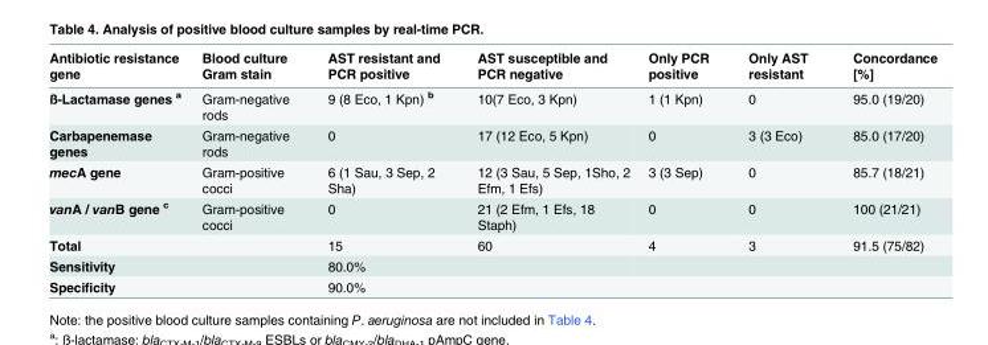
<table><thead><tr><td>Antibiotic resistance gene</td><td>Blood culture Gram stain</td><td>AST resistant and PCR positive</td><td>AST susceptible and PCR negative</td><td>Only PCR positive</td><td>Only AST resistant</td><td>Concordance [%]</td></tr></thead><tbody><tr><td>ß-Lactamase genes <sup>a</sup></td><td>Gram-negative rods</td><td>9 (8 Eco, 1 Kpn) <sup>b</sup></td><td>10(7 Eco, 3 Kpn)</td><td>1 (1 Kpn)</td><td>0</td><td>95.0 (19/20)</td></tr><tr><td>Carbapenemase genes</td><td>Gram-negative rods</td><td>0</td><td>17 (12 Eco, 5 Kpn)</td><td>0</td><td>3 (3 Eco)</td><td>85.0 (17/20)</td></tr><tr><td>mecA gene</td><td>Gram-positive cocci</td><td>6 (1 Sau, 3 Sep, 2 Sha)</td><td>12 (3 Sau, 5 Sep, 1Sho, 2 Efm, 1 Efs)</td><td>3 (3 Sep)</td><td>0</td><td>85.7 (18/21)</td></tr><tr><td>vanA / vanB gene <sup>c</sup></td><td>Gram-positive cocci</td><td>0</td><td>21 (2 Efm, 1 Efs, 18 Staph)</td><td>0</td><td>0</td><td>100 (21/21)</td></tr><tr><td>Total</td><td></td><td>15</td><td>60</td><td>4</td><td>3</td><td>91.5 (75/82)</td></tr><tr><td>Sensitivity</td><td></td><td>80.0%</td><td></td><td></td><td></td><td></td></tr><tr><td>Specificity</td><td></td><td>90.0%</td><td></td><td></td><td></td><td></td></tr></tbody></table>